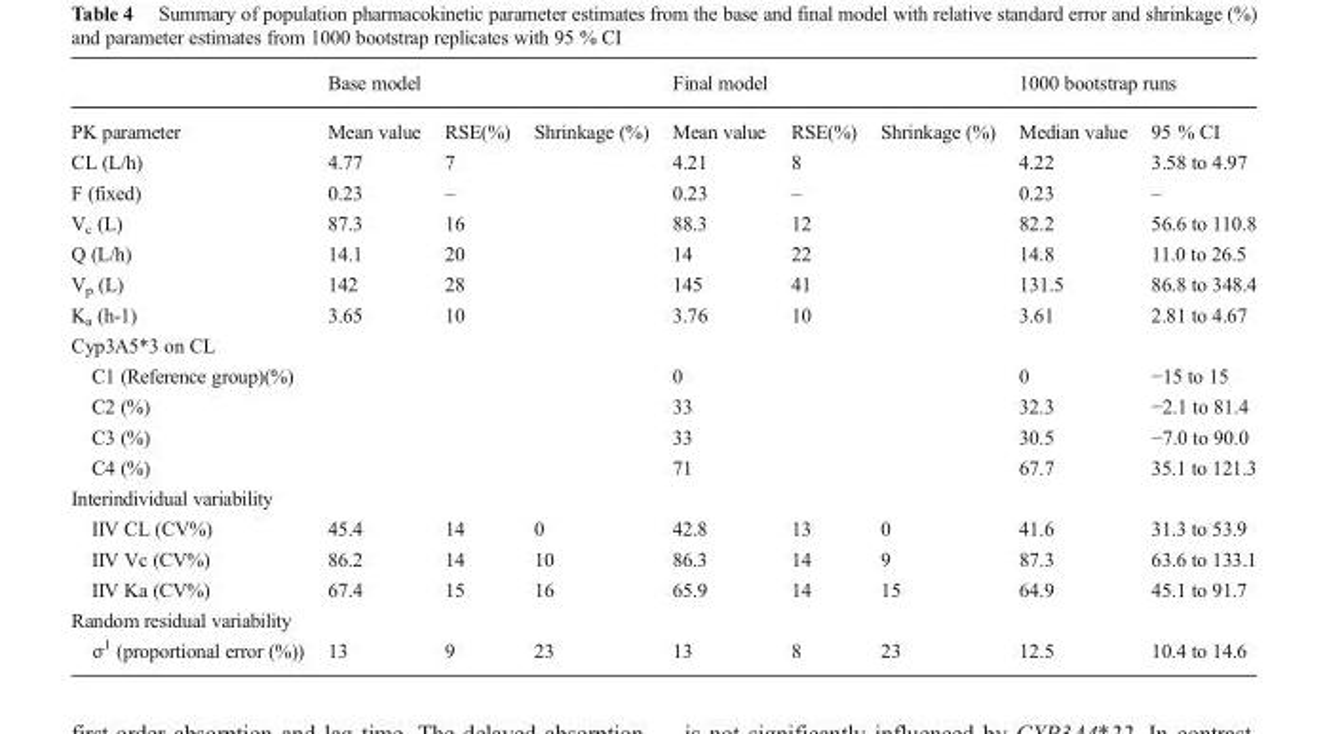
<table><thead><tr><td rowspan="2">PK parameter</td><td rowspan="2">Base model Mean value</td><td rowspan="2">RSE(%)</td><td rowspan="2">Shrinkage (%)</td><td rowspan="2">Final model Mean value</td><td rowspan="2">RSE(%)</td><td rowspan="2">Shrinkage (%)</td><td colspan="2">1000 bootstrap runs</td></tr><tr><td>Median value</td><td>95 % CI</td></tr></thead><tbody><tr><td>CL (L/h)</td><td>4.77</td><td>7</td><td></td><td>4.21</td><td>8</td><td></td><td>4.22</td><td>3.58 to 4.97</td></tr><tr><td>F (fixed)</td><td>0.23</td><td>–</td><td></td><td>0.23</td><td>–</td><td></td><td>0.23</td><td>–</td></tr><tr><td>V<sub>c</sub> (L)</td><td>87.3</td><td>16</td><td></td><td>88.3</td><td>12</td><td></td><td>82.2</td><td>56.6 to 110.8</td></tr><tr><td>Q (L/h)</td><td>14.1</td><td>20</td><td></td><td>14</td><td>22</td><td></td><td>14.8</td><td>11.0 to 26.5</td></tr><tr><td>V<sub>p</sub> (L)</td><td>142</td><td>28</td><td></td><td>145</td><td>41</td><td></td><td>131.5</td><td>86.8 to 348.4</td></tr><tr><td>K<sub>a</sub> (h-1)</td><td>3.65</td><td>10</td><td></td><td>3.76</td><td>10</td><td></td><td>3.61</td><td>2.81 to 4.67</td></tr><tr><td colspan="9">Cyp3A5*3 on CL</td></tr><tr><td>C1 (Reference group)(%)</td><td></td><td></td><td></td><td>0</td><td></td><td></td><td>0</td><td>−15 to 15</td></tr><tr><td>C2 (%)</td><td></td><td></td><td></td><td>33</td><td></td><td></td><td>32.3</td><td>−2.1 to 81.4</td></tr><tr><td>C3 (%)</td><td></td><td></td><td></td><td>33</td><td></td><td></td><td>30.5</td><td>−7.0 to 90.0</td></tr><tr><td>C4 (%)</td><td></td><td></td><td></td><td>71</td><td></td><td></td><td>67.7</td><td>35.1 to 121.3</td></tr><tr><td colspan="9">Interindividual variability</td></tr><tr><td>IIV CL (CV%)</td><td>45.4</td><td>14</td><td>0</td><td>42.8</td><td>13</td><td>0</td><td>41.6</td><td>31.3 to 53.9</td></tr><tr><td>IIV Vc (CV%)</td><td>86.2</td><td>14</td><td>10</td><td>86.3</td><td>14</td><td>9</td><td>87.3</td><td>63.6 to 133.1</td></tr><tr><td>IIV Ka (CV%)</td><td>67.4</td><td>15</td><td>16</td><td>65.9</td><td>14</td><td>15</td><td>64.9</td><td>45.1 to 91.7</td></tr><tr><td colspan="9">Random residual variability</td></tr><tr><td>σ<sup>1</sup> (proportional error (%))</td><td>13</td><td>9</td><td>23</td><td>13</td><td>8</td><td>23</td><td>12.5</td><td>10.4 to 14.6</td></tr></tbody></table>